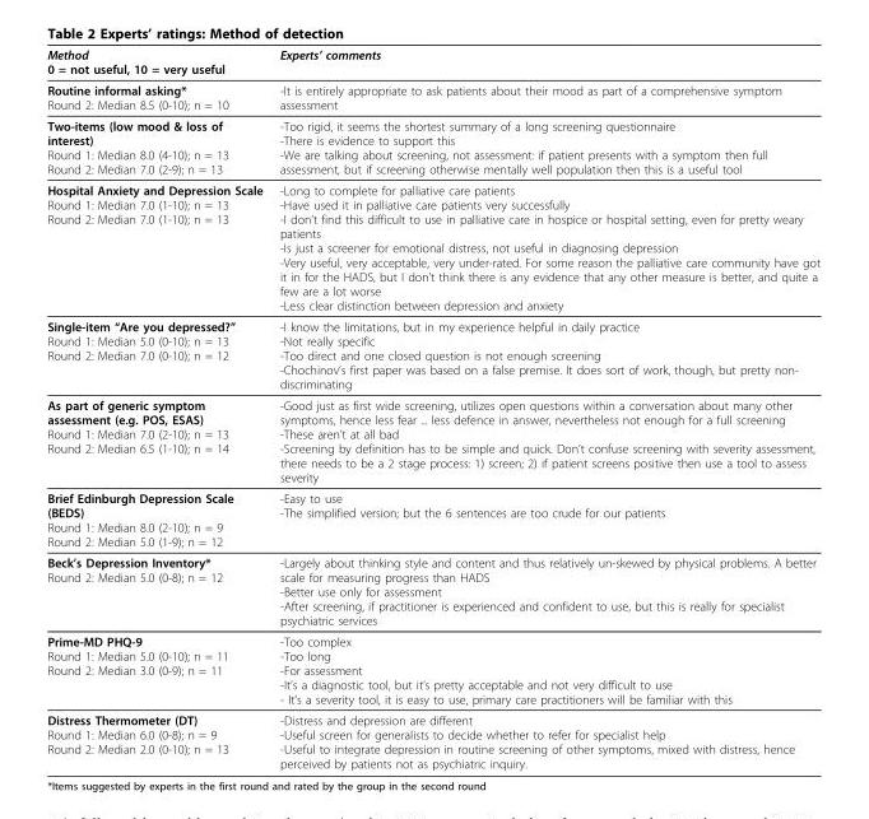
<table><thead><tr><td>Method 0 = not useful, 10 = very useful</td><td>Experts’ comments</td></tr></thead><tbody><tr><td>Routine informal asking* Round 2: Median 8.5 (0-10); n = 10</td><td>-It is entirely appropriate to ask patients about their mood as part of a comprehensive symptom assessment</td></tr><tr><td>Two-items (low mood &amp; loss of interest) Round 1: Median 8.0 (4-10); n = 13 Round 2: Median 7.0 (2-9); n = 13</td><td>-Too rigid, it seems the shortest summary of a long screening questionnaire -There is evidence to support this -We are talking about screening, not assessment: if patient presents with a symptom then full assessment, but if screening otherwise mentally well population then this is a useful tool</td></tr><tr><td>Hospital Anxiety and Depression Scale Round 1: Median 7.0 (1-10); n = 13 Round 2: Median 7.0 (1-10); n = 13</td><td>-Long to complete for palliative care patients -Have used it in palliative care patients very successfully -I don’t find this difficult to use in palliative care in hospice or hospital setting, even for pretty weary patients -Is just a screener for emotional distress, not useful in diagnosing depression -Very useful, very acceptable, very under-rated. For some reason the palliative care community have got it in for the HADS, but I don’t think there is any evidence that any other measure is better, and quite a few are a lot worse -Less clear distinction between depression and anxiety</td></tr><tr><td>Single-item “Are you depressed?” Round 1: Median 5.0 (0-10); n = 13 Round 2: Median 7.0 (0-10); n = 12</td><td>-I know the limitations, but in my experience helpful in daily practice -Not really specific -Too direct and one closed question is not enough screening -Chochinov’s first paper was based on a false premise. It does sort of work, though, but pretty non- discriminating</td></tr><tr><td>As part of generic symptom assessment (e.g. POS, ESAS) Round 1: Median 7.0 (2-10); n = 13 Round 2: Median 6.5 (1-10); n = 14</td><td>-Good just as first wide screening, utilizes open questions within a conversation about many other symptoms, hence less fear ... less defence in answer, nevertheless not enough for a full screening -These aren’t at all bad -Screening by definition has to be simple and quick. Don’t confuse screening with severity assessment, there needs to be a 2 stage process: 1) screen; 2) if patient screens positive then use a tool to assess severity</td></tr><tr><td>Brief Edinburgh Depression Scale (BEDS) Round 1: Median 8.0 (2-10); n = 9 Round 2: Median 5.0 (1-9); n = 12</td><td>-Easy to use -The simplified version; but the 6 sentences are too crude for our patients</td></tr><tr><td>Beck’s Depression Inventory* Round 2: Median 5.0 (0-8); n = 12</td><td>-Largely about thinking style and content and thus relatively un-skewed by physical problems. A better scale for measuring progress than HADS -Better use only for assessment -After screening, if practitioner is experienced and confident to use, but this is really for specialist psychiatric services</td></tr><tr><td>Prime-MD PHQ-9 Round 1: Median 5.0 (0-10); n = 11 Round 2: Median 3.0 (0-9); n = 11</td><td>-Too complex -Too long -For assessment -It’s a diagnostic tool, but it’s pretty acceptable and not very difficult to use - It’s a severity tool, it is easy to use, primary care practitioners will be familiar with this</td></tr><tr><td>Distress Thermometer (DT) Round 1: Median 6.0 (0-8); n = 9 Round 2: Median 2.0 (0-10); n = 13</td><td>-Distress and depression are different -Useful screen for generalists to decide whether to refer for specialist help -Useful to integrate depression in routine screening of other symptoms, mixed with distress, hence perceived by patients not as psychiatric inquiry.</td></tr></tbody></table>